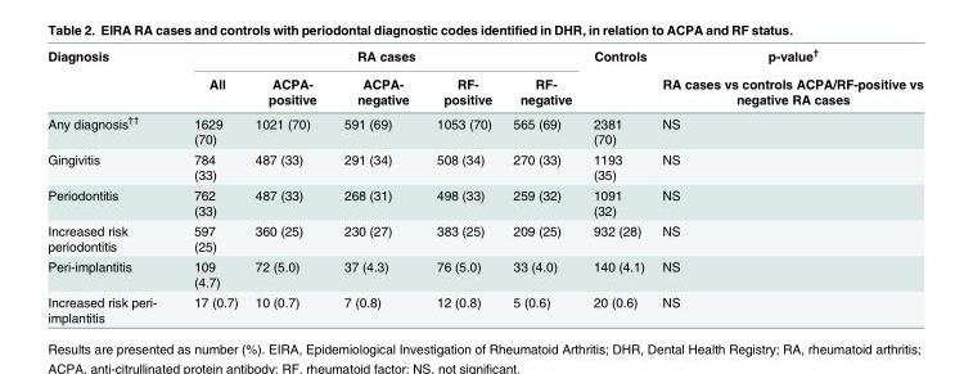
<table><thead><tr><td rowspan="2">Diagnosis</td><td colspan="5">RA cases</td><td rowspan="2">Controls</td><td rowspan="2">p-value<sup>†</sup> RA cases vs controls ACPA/RF-positive vs negative RA cases</td></tr><tr><td>All</td><td>ACPA- positive</td><td>ACPA- negative</td><td>RF- positive</td><td>RF- negative</td></tr></thead><tbody><tr><td>Any diagnosis<sup>††</sup></td><td>1629 (70)</td><td>1021 (70)</td><td>591 (69)</td><td>1053 (70)</td><td>565 (69)</td><td>2381 (70)</td><td>NS</td></tr><tr><td>Gingivitis</td><td>784 (33)</td><td>487 (33)</td><td>291 (34)</td><td>508 (34)</td><td>270 (33)</td><td>1193 (35)</td><td>NS</td></tr><tr><td>Periodontitis</td><td>762 (33)</td><td>487 (33)</td><td>268 (31)</td><td>498 (33)</td><td>259 (32)</td><td>1091 (32)</td><td>NS</td></tr><tr><td>Increased risk periodontitis</td><td>597 (25)</td><td>360 (25)</td><td>230 (27)</td><td>383 (25)</td><td>209 (25)</td><td>932 (28)</td><td>NS</td></tr><tr><td>Peri-implantitis</td><td>109 (4.7)</td><td>72 (5.0)</td><td>37 (4.3)</td><td>76 (5.0)</td><td>33 (4.0)</td><td>140 (4.1)</td><td>NS</td></tr><tr><td>Increased risk peri- implantitis</td><td>17 (0.7)</td><td>10 (0.7)</td><td>7 (0.8)</td><td>12 (0.8)</td><td>5 (0.6)</td><td>20 (0.6)</td><td>NS</td></tr></tbody></table>